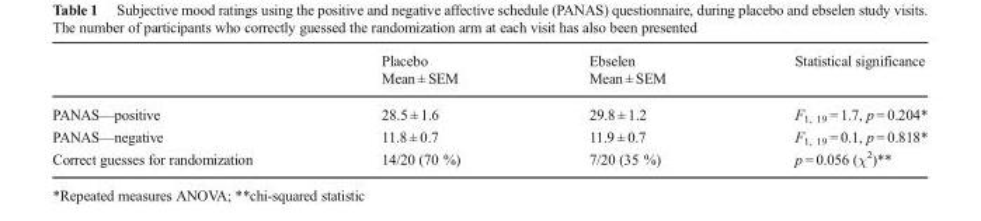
<table><thead><tr><td></td><td>Placebo Mean ± SEM</td><td>Ebselen Mean ± SEM</td><td>Statistical significance</td></tr></thead><tbody><tr><td>PANAS—positive</td><td>28.5 ± 1.6</td><td>29.8 ± 1.2</td><td>F<sub>1, 19</sub> = 1.7, p = 0.204*</td></tr><tr><td>PANAS—negative</td><td>11.8 ± 0.7</td><td>11.9 ± 0.7</td><td>F<sub>1, 19</sub> = 0.1, p = 0.818*</td></tr><tr><td>Correct guesses for randomization</td><td>14/20 (70 %)</td><td>7/20 (35 %)</td><td>p = 0.056 (χ<sup>2</sup>)**</td></tr></tbody></table>